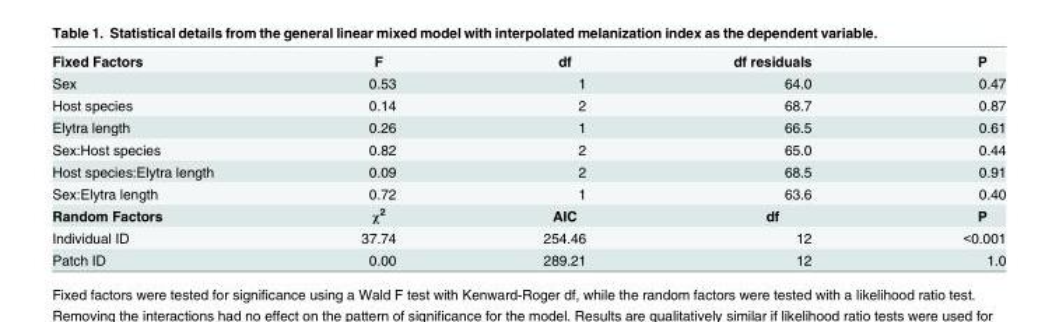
<table><tbody><tr><td>Fixed Factors</td><td>F</td><td>df</td><td>df residuals</td><td>P</td></tr><tr><td>Sex</td><td>0.53</td><td>1</td><td>64.0</td><td>0.47</td></tr><tr><td>Host species</td><td>0.14</td><td>2</td><td>68.7</td><td>0.87</td></tr><tr><td>Elytra length</td><td>0.26</td><td>1</td><td>66.5</td><td>0.61</td></tr><tr><td>Sex:Host species</td><td>0.82</td><td>2</td><td>65.0</td><td>0.44</td></tr><tr><td>Host species:Elytra length</td><td>0.09</td><td>2</td><td>68.5</td><td>0.91</td></tr><tr><td>Sex:Elytra length</td><td>0.72</td><td>1</td><td>63.6</td><td>0.40</td></tr><tr><td>Random Factors</td><td>χ<sup>2</sup></td><td>AIC</td><td>df</td><td>P</td></tr><tr><td>Individual ID</td><td>37.74</td><td>254.46</td><td>12</td><td>&lt;0.001</td></tr><tr><td>Patch ID</td><td>0.00</td><td>289.21</td><td>12</td><td>1.0</td></tr></tbody></table>